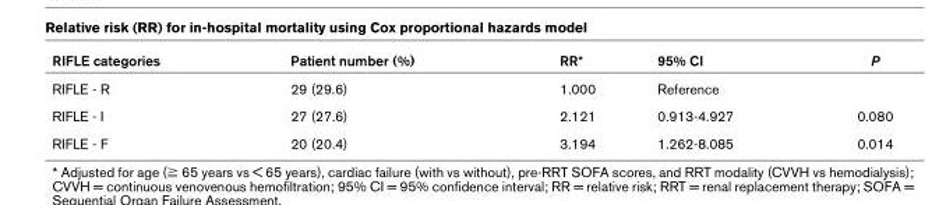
<table><thead><tr><td>RIFLE categories</td><td>Patient number (%)</td><td>RR*</td><td>95% CI</td><td>P</td></tr></thead><tbody><tr><td>RIFLE - R</td><td>29 (29.6)</td><td>1.000</td><td>Reference</td><td></td></tr><tr><td>RIFLE - I</td><td>27 (27.6)</td><td>2.121</td><td>0.913-4.927</td><td>0.080</td></tr><tr><td>RIFLE - F</td><td>20 (20.4)</td><td>3.194</td><td>1.262-8.085</td><td>0.014</td></tr></tbody></table>